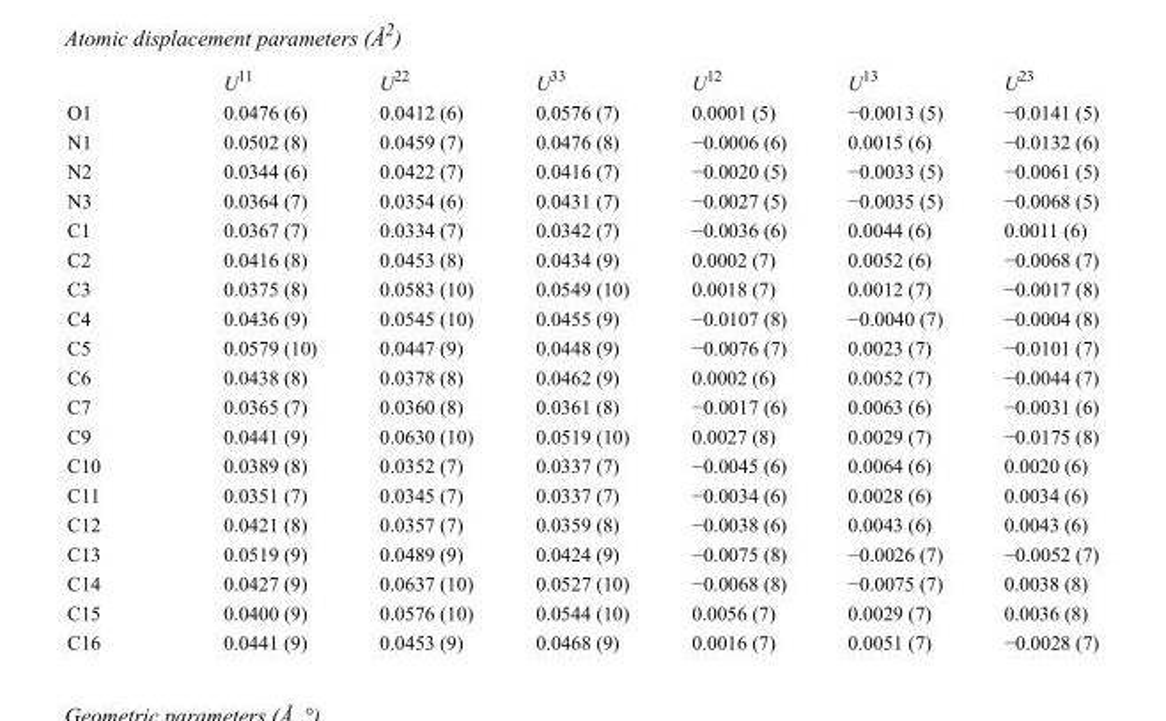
<table><thead><tr><td></td><td>U<sup>11</sup></td><td>U<sup>22</sup></td><td>U<sup>33</sup></td><td>U<sup>12</sup></td><td>U<sup>13</sup></td><td>U<sup>23</sup></td></tr></thead><tbody><tr><td>O1</td><td>0.0476 (6)</td><td>0.0412 (6)</td><td>0.0576 (7)</td><td>0.0001 (5)</td><td>−0.0013 (5)</td><td>−0.0141 (5)</td></tr><tr><td>N1</td><td>0.0502 (8)</td><td>0.0459 (7)</td><td>0.0476 (8)</td><td>−0.0006 (6)</td><td>0.0015 (6)</td><td>−0.0132 (6)</td></tr><tr><td>N2</td><td>0.0344 (6)</td><td>0.0422 (7)</td><td>0.0416 (7)</td><td>−0.0020 (5)</td><td>−0.0033 (5)</td><td>−0.0061 (5)</td></tr><tr><td>N3</td><td>0.0364 (7)</td><td>0.0354 (6)</td><td>0.0431 (7)</td><td>−0.0027 (5)</td><td>−0.0035 (5)</td><td>−0.0068 (5)</td></tr><tr><td>C1</td><td>0.0367 (7)</td><td>0.0334 (7)</td><td>0.0342 (7)</td><td>−0.0036 (6)</td><td>0.0044 (6)</td><td>0.0011 (6)</td></tr><tr><td>C2</td><td>0.0416 (8)</td><td>0.0453 (8)</td><td>0.0434 (9)</td><td>0.0002 (7)</td><td>0.0052 (6)</td><td>−0.0068 (7)</td></tr><tr><td>C3</td><td>0.0375 (8)</td><td>0.0583 (10)</td><td>0.0549 (10)</td><td>0.0018 (7)</td><td>0.0012 (7)</td><td>−0.0017 (8)</td></tr><tr><td>C4</td><td>0.0436 (9)</td><td>0.0545 (10)</td><td>0.0455 (9)</td><td>−0.0107 (8)</td><td>−0.0040 (7)</td><td>−0.0004 (8)</td></tr><tr><td>C5</td><td>0.0579 (10)</td><td>0.0447 (9)</td><td>0.0448 (9)</td><td>−0.0076 (7)</td><td>0.0023 (7)</td><td>−0.0101 (7)</td></tr><tr><td>C6</td><td>0.0438 (8)</td><td>0.0378 (8)</td><td>0.0462 (9)</td><td>0.0002 (6)</td><td>0.0052 (7)</td><td>−0.0044 (7)</td></tr><tr><td>C7</td><td>0.0365 (7)</td><td>0.0360 (8)</td><td>0.0361 (8)</td><td>−0.0017 (6)</td><td>0.0063 (6)</td><td>−0.0031 (6)</td></tr><tr><td>C9</td><td>0.0441 (9)</td><td>0.0630 (10)</td><td>0.0519 (10)</td><td>0.0027 (8)</td><td>0.0029 (7)</td><td>−0.0175 (8)</td></tr><tr><td>C10</td><td>0.0389 (8)</td><td>0.0352 (7)</td><td>0.0337 (7)</td><td>−0.0045 (6)</td><td>0.0064 (6)</td><td>0.0020 (6)</td></tr><tr><td>C11</td><td>0.0351 (7)</td><td>0.0345 (7)</td><td>0.0337 (7)</td><td>−0.0034 (6)</td><td>0.0028 (6)</td><td>0.0034 (6)</td></tr><tr><td>C12</td><td>0.0421 (8)</td><td>0.0357 (7)</td><td>0.0359 (8)</td><td>−0.0038 (6)</td><td>0.0043 (6)</td><td>0.0043 (6)</td></tr><tr><td>C13</td><td>0.0519 (9)</td><td>0.0489 (9)</td><td>0.0424 (9)</td><td>−0.0075 (8)</td><td>−0.0026 (7)</td><td>−0.0052 (7)</td></tr><tr><td>C14</td><td>0.0427 (9)</td><td>0.0637 (10)</td><td>0.0527 (10)</td><td>−0.0068 (8)</td><td>−0.0075 (7)</td><td>0.0038 (8)</td></tr><tr><td>C15</td><td>0.0400 (9)</td><td>0.0576 (10)</td><td>0.0544 (10)</td><td>0.0056 (7)</td><td>0.0029 (7)</td><td>0.0036 (8)</td></tr><tr><td>C16</td><td>0.0441 (9)</td><td>0.0453 (9)</td><td>0.0468 (9)</td><td>0.0016 (7)</td><td>0.0051 (7)</td><td>−0.0028 (7)</td></tr></tbody></table>